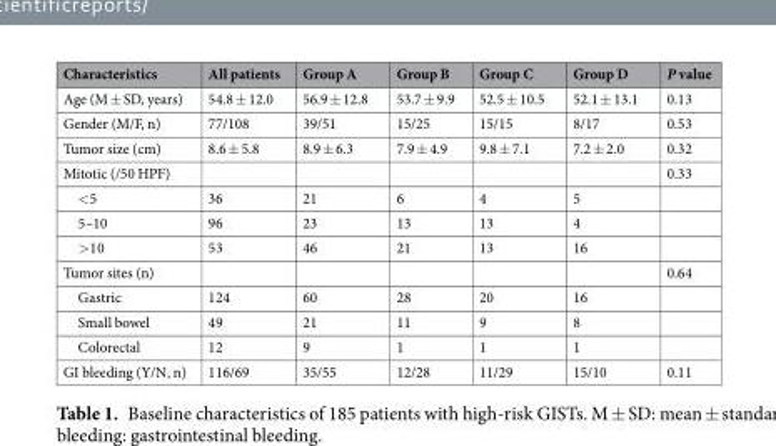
<table><thead><tr><td>Characteristics</td><td>All patients</td><td>Group A</td><td>Group B</td><td>Group C</td><td>Group D</td><td>P value</td></tr></thead><tbody><tr><td>Age (M ± SD, years)</td><td>54.8 ± 12.0</td><td>56.9 ± 12.8</td><td>53.7 ± 9.9</td><td>52.5 ± 10.5</td><td>52.1 ± 13.1</td><td>0.13</td></tr><tr><td>Gender (M/F, n)</td><td>77/108</td><td>39/51</td><td>15/25</td><td>15/15</td><td>8/17</td><td>0.53</td></tr><tr><td>Tumor size (cm)</td><td>8.6 ± 5.8</td><td>8.9 ± 6.3</td><td>7.9 ± 4.9</td><td>9.8 ± 7.1</td><td>7.2 ± 2.0</td><td>0.32</td></tr><tr><td>Mitotic (/50 HPF)</td><td></td><td></td><td></td><td></td><td></td><td>0.33</td></tr><tr><td>&lt;5</td><td>36</td><td>21</td><td>6</td><td>4</td><td>5</td><td></td></tr><tr><td>5–10</td><td>96</td><td>23</td><td>13</td><td>13</td><td>4</td><td></td></tr><tr><td>&gt;10</td><td>53</td><td>46</td><td>21</td><td>13</td><td>16</td><td></td></tr><tr><td>Tumor sites (n)</td><td></td><td></td><td></td><td></td><td></td><td>0.64</td></tr><tr><td>Gastric</td><td>124</td><td>60</td><td>28</td><td>20</td><td>16</td><td></td></tr><tr><td>Small bowel</td><td>49</td><td>21</td><td>11</td><td>9</td><td>8</td><td></td></tr><tr><td>Colorectal</td><td>12</td><td>9</td><td>1</td><td>1</td><td>1</td><td></td></tr><tr><td>GI bleeding (Y/N, n)</td><td>116/69</td><td>35/55</td><td>12/28</td><td>11/29</td><td>15/10</td><td>0.11</td></tr></tbody></table>